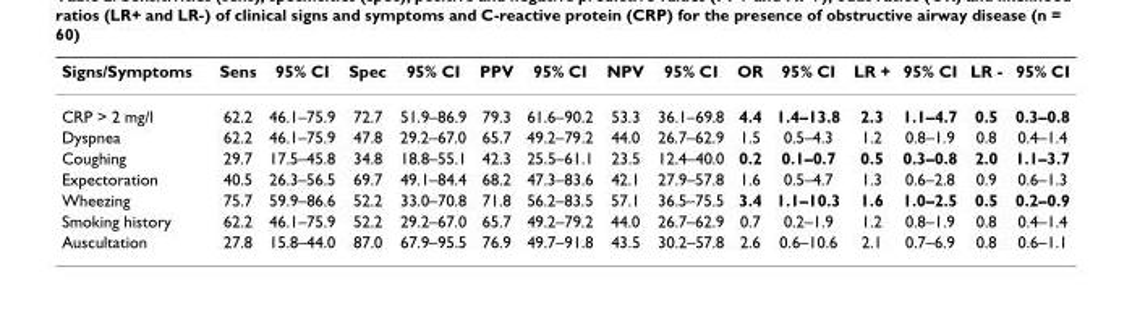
<table><thead><tr><td>Signs/Symptoms</td><td>Sens</td><td>95% CI</td><td>Spec</td><td>95% CI</td><td>PPV</td><td>95% CI</td><td>NPV</td><td>95% CI</td><td>OR</td><td>95% CI</td><td>LR +</td><td>95% CI</td><td>LR -</td><td>95% CI</td></tr></thead><tbody><tr><td>CRP &gt; 2 mg/l</td><td>62.2</td><td>46.1–75.9</td><td>72.7</td><td>51.9–86.9</td><td>79.3</td><td>61.6–90.2</td><td>53.3</td><td>36.1–69.8</td><td>4.4</td><td>1.4–13.8</td><td>2.3</td><td>1.1–4.7</td><td>0.5</td><td>0.3–0.8</td></tr><tr><td>Dyspnea</td><td>62.2</td><td>46.1–75.9</td><td>47.8</td><td>29.2–67.0</td><td>65.7</td><td>49.2–79.2</td><td>44.0</td><td>26.7–62.9</td><td>1.5</td><td>0.5–4.3</td><td>1.2</td><td>0.8–1.9</td><td>0.8</td><td>0.4–1.4</td></tr><tr><td>Coughing</td><td>29.7</td><td>17.5–45.8</td><td>34.8</td><td>18.8–55.1</td><td>42.3</td><td>25.5–61.1</td><td>23.5</td><td>12.4–40.0</td><td>0.2</td><td>0.1–0.7</td><td>0.5</td><td>0.3–0.8</td><td>2.0</td><td>1.1–3.7</td></tr><tr><td>Expectoration</td><td>40.5</td><td>26.3–56.5</td><td>69.7</td><td>49.1–84.4</td><td>68.2</td><td>47.3–83.6</td><td>42.1</td><td>27.9–57.8</td><td>1.6</td><td>0.5–4.7</td><td>1.3</td><td>0.6–2.8</td><td>0.9</td><td>0.6–1.3</td></tr><tr><td>Wheezing</td><td>75.7</td><td>59.9–86.6</td><td>52.2</td><td>33.0–70.8</td><td>71.8</td><td>56.2–83.5</td><td>57.1</td><td>36.5–75.5</td><td>3.4</td><td>1.1–10.3</td><td>1.6</td><td>1.0–2.5</td><td>0.5</td><td>0.2–0.9</td></tr><tr><td>Smoking history</td><td>62.2</td><td>46.1–75.9</td><td>52.2</td><td>29.2–67.0</td><td>65.7</td><td>49.2–79.2</td><td>44.0</td><td>26.7–62.9</td><td>0.7</td><td>0.2–1.9</td><td>1.2</td><td>0.8–1.9</td><td>0.8</td><td>0.4–1.4</td></tr><tr><td>Auscultation</td><td>27.8</td><td>15.8–44.0</td><td>87.0</td><td>67.9–95.5</td><td>76.9</td><td>49.7–91.8</td><td>43.5</td><td>30.2–57.8</td><td>2.6</td><td>0.6–10.6</td><td>2.1</td><td>0.7–6.9</td><td>0.8</td><td>0.6–1.1</td></tr></tbody></table>